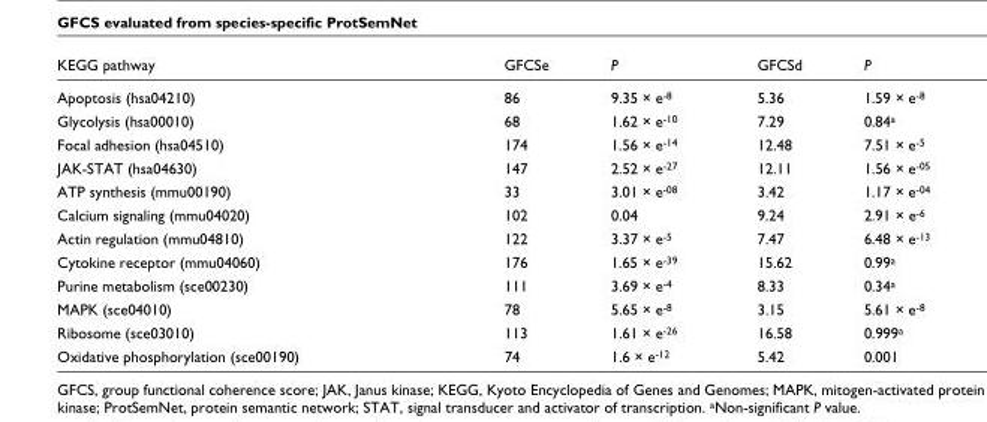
<table><thead><tr><td>KEGG pathway</td><td>GFCSe</td><td>P</td><td>GFCSd</td><td>P</td></tr></thead><tbody><tr><td>Apoptosis (hsa04210)</td><td>86</td><td>9.35 × e<sup>-8</sup></td><td>5.36</td><td>1.59 × e<sup>-8</sup></td></tr><tr><td>Glycolysis (hsa00010)</td><td>68</td><td>1.62 × e<sup>-10</sup></td><td>7.29</td><td>0.84<sup>a</sup></td></tr><tr><td>Focal adhesion (hsa04510)</td><td>174</td><td>1.56 × e<sup>-14</sup></td><td>12.48</td><td>7.51 × e<sup>-5</sup></td></tr><tr><td>JAK-STAT (hsa04630)</td><td>147</td><td>2.52 × e<sup>-27</sup></td><td>12.11</td><td>1.56 × e<sup>-05</sup></td></tr><tr><td>ATP synthesis (mmu00190)</td><td>33</td><td>3.01 × e<sup>-08</sup></td><td>3.42</td><td>1.17 × e<sup>-04</sup></td></tr><tr><td>Calcium signaling (mmu04020)</td><td>102</td><td>0.04</td><td>9.24</td><td>2.91 × e<sup>-6</sup></td></tr><tr><td>Actin regulation (mmu04810)</td><td>122</td><td>3.37 × e<sup>-5</sup></td><td>7.47</td><td>6.48 × e<sup>-13</sup></td></tr><tr><td>Cytokine receptor (mmu04060)</td><td>176</td><td>1.65 × e<sup>-39</sup></td><td>15.62</td><td>0.99<sup>a</sup></td></tr><tr><td>Purine metabolism (sce00230)</td><td>111</td><td>3.69 × e<sup>-4</sup></td><td>8.33</td><td>0.34<sup>a</sup></td></tr><tr><td>MAPK (sce04010)</td><td>78</td><td>5.65 × e<sup>-8</sup></td><td>3.15</td><td>5.61 × e<sup>-8</sup></td></tr><tr><td>Ribosome (sce03010)</td><td>113</td><td>1.61 × e<sup>-26</sup></td><td>16.58</td><td>0.999<sup>a</sup></td></tr><tr><td>Oxidative phosphorylation (sce00190)</td><td>74</td><td>1.6 × e<sup>-12</sup></td><td>5.42</td><td>0.001</td></tr></tbody></table>